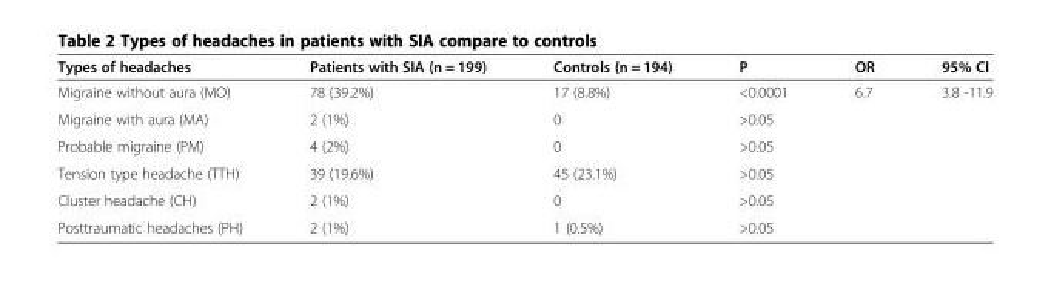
<table><thead><tr><td>Types of headaches</td><td>Patients with SIA (n = 199)</td><td>Controls (n = 194)</td><td>P</td><td>OR</td><td>95% CI</td></tr></thead><tbody><tr><td>Migraine without aura (MO)</td><td>78 (39.2%)</td><td>17 (8.8%)</td><td>&lt;0.0001</td><td>6.7</td><td>3.8 -11.9</td></tr><tr><td>Migraine with aura (MA)</td><td>2 (1%)</td><td>0</td><td>&gt;0.05</td><td></td><td></td></tr><tr><td>Probable migraine (PM)</td><td>4 (2%)</td><td>0</td><td>&gt;0.05</td><td></td><td></td></tr><tr><td>Tension type headache (TTH)</td><td>39 (19.6%)</td><td>45 (23.1%)</td><td>&gt;0.05</td><td></td><td></td></tr><tr><td>Cluster headache (CH)</td><td>2 (1%)</td><td>0</td><td>&gt;0.05</td><td></td><td></td></tr><tr><td>Posttraumatic headaches (PH)</td><td>2 (1%)</td><td>1 (0.5%)</td><td>&gt;0.05</td><td></td><td></td></tr></tbody></table>